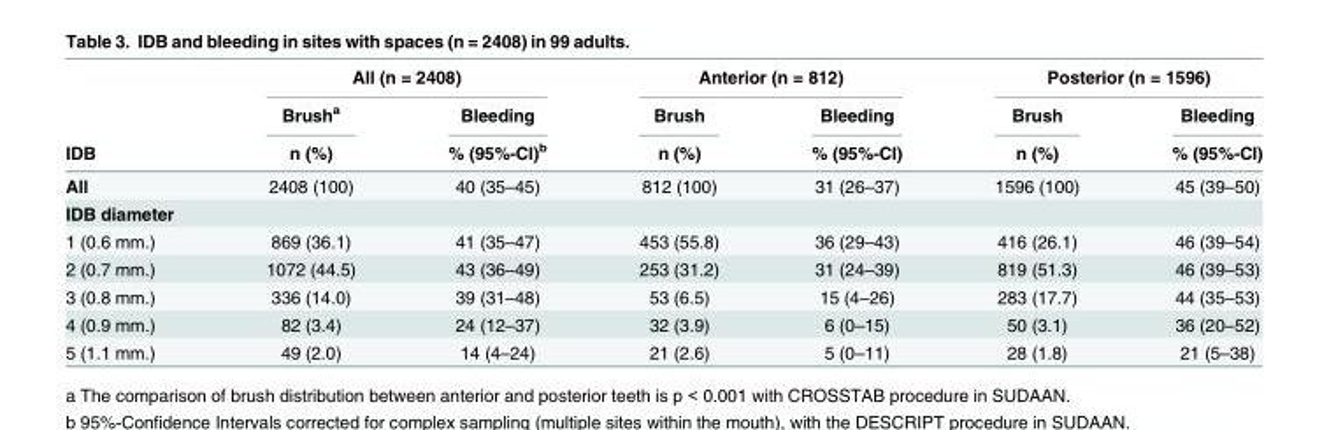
<table><thead><tr><td rowspan="3">IDB</td><td colspan="2">All (n = 2408)</td><td colspan="2">Anterior (n = 812)</td><td colspan="2">Posterior (n = 1596)</td></tr><tr><td rowspan="2">Brush<sup>a</sup> n (%)</td><td rowspan="2">Bleeding % (95%-CI)<sup>b</sup></td><td rowspan="2">Brush n (%)</td><td rowspan="2">Bleeding % (95%-CI)</td><td rowspan="2">Brush n (%)</td><td rowspan="2">Bleeding % (95%-CI)</td></tr><tr></tr></thead><tbody><tr><td>All</td><td>2408 (100)</td><td>40 (35–45)</td><td>812 (100)</td><td>31 (26–37)</td><td>1596 (100)</td><td>45 (39–50)</td></tr><tr><td colspan="7">IDB diameter</td></tr><tr><td>1 (0.6 mm.)</td><td>869 (36.1)</td><td>41 (35–47)</td><td>453 (55.8)</td><td>36 (29–43)</td><td>416 (26.1)</td><td>46 (39–54)</td></tr><tr><td>2 (0.7 mm.)</td><td>1072 (44.5)</td><td>43 (36–49)</td><td>253 (31.2)</td><td>31 (24–39)</td><td>819 (51.3)</td><td>46 (39–53)</td></tr><tr><td>3 (0.8 mm.)</td><td>336 (14.0)</td><td>39 (31–48)</td><td>53 (6.5)</td><td>15 (4–26)</td><td>283 (17.7)</td><td>44 (35–53)</td></tr><tr><td>4 (0.9 mm.)</td><td>82 (3.4)</td><td>24 (12–37)</td><td>32 (3.9)</td><td>6 (0–15)</td><td>50 (3.1)</td><td>36 (20–52)</td></tr><tr><td>5 (1.1 mm.)</td><td>49 (2.0)</td><td>14 (4–24)</td><td>21 (2.6)</td><td>5 (0–11)</td><td>28 (1.8)</td><td>21 (5–38)</td></tr></tbody></table>